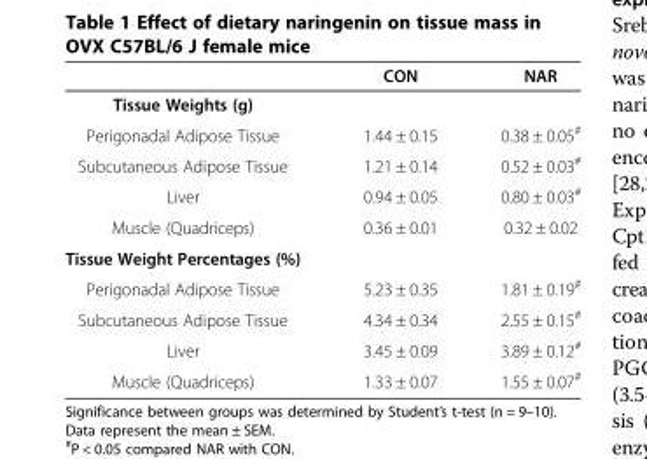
<table><thead><tr><td></td><td>CON</td><td>NAR</td></tr></thead><tbody><tr><td colspan="3">Tissue Weights (g)</td></tr><tr><td>Perigonadal Adipose Tissue</td><td>1.44 ± 0.15</td><td>0.38 ± 0.05<sup>#</sup></td></tr><tr><td>Subcutaneous Adipose Tissue</td><td>1.21 ± 0.14</td><td>0.52 ± 0.03<sup>#</sup></td></tr><tr><td>Liver</td><td>0.94 ± 0.05</td><td>0.80 ± 0.03<sup>#</sup></td></tr><tr><td>Muscle (Quadriceps)</td><td>0.36 ± 0.01</td><td>0.32 ± 0.02</td></tr><tr><td colspan="3">Tissue Weight Percentages (%)</td></tr><tr><td>Perigonadal Adipose Tissue</td><td>5.23 ± 0.35</td><td>1.81 ± 0.19<sup>#</sup></td></tr><tr><td>Subcutaneous Adipose Tissue</td><td>4.34 ± 0.34</td><td>2.55 ± 0.15<sup>#</sup></td></tr><tr><td>Liver</td><td>3.45 ± 0.09</td><td>3.89 ± 0.12<sup>#</sup></td></tr><tr><td>Muscle (Quadriceps)</td><td>1.33 ± 0.07</td><td>1.55 ± 0.07<sup>#</sup></td></tr></tbody></table>